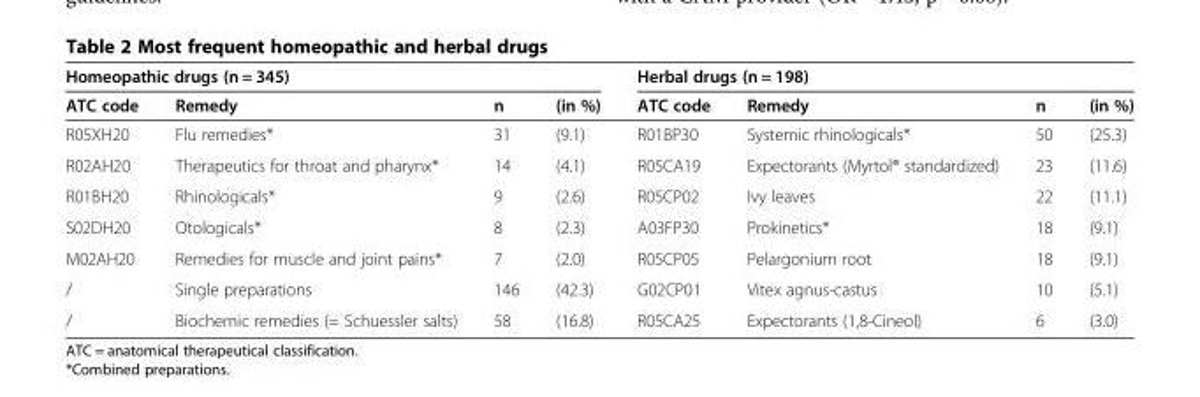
<table><thead><tr><td colspan="4">Homeopathic drugs (n = 345)</td><td colspan="4">Herbal drugs (n = 198)</td></tr><tr><td>ATC code</td><td>Remedy</td><td>n</td><td>(in %)</td><td>ATC code</td><td>Remedy</td><td>n</td><td>(in %)</td></tr></thead><tbody><tr><td>R05XH20</td><td>Flu remedies*</td><td>31</td><td>(9.1)</td><td>R01BP30</td><td>Systemic rhinologicals*</td><td>50</td><td>(25.3)</td></tr><tr><td>R02AH20</td><td>Therapeutics for throat and pharynx*</td><td>14</td><td>(4.1)</td><td>R05CA19</td><td>Expectorants (Myrtol® standardized)</td><td>23</td><td>(11.6)</td></tr><tr><td>R01BH20</td><td>Rhinologicals*</td><td>9</td><td>(2.6)</td><td>R05CP02</td><td>Ivy leaves</td><td>22</td><td>(11.1)</td></tr><tr><td>S02DH20</td><td>Otologicals*</td><td>8</td><td>(2.3)</td><td>A03FP30</td><td>Prokinetics*</td><td>18</td><td>(9.1)</td></tr><tr><td>M02AH20</td><td>Remedies for muscle and joint pains*</td><td>7</td><td>(2.0)</td><td>R05CP05</td><td>Pelargonium root</td><td>18</td><td>(9.1)</td></tr><tr><td>/</td><td>Single preparations</td><td>146</td><td>(42.3)</td><td>G02CP01</td><td>Vitex agnus-castus</td><td>10</td><td>(5.1)</td></tr><tr><td>/</td><td>Biochemic remedies (= Schuessler salts)</td><td>58</td><td>(16.8)</td><td>R05CA25</td><td>Expectorants (1,8-Cineol)</td><td>6</td><td>(3.0)</td></tr></tbody></table>